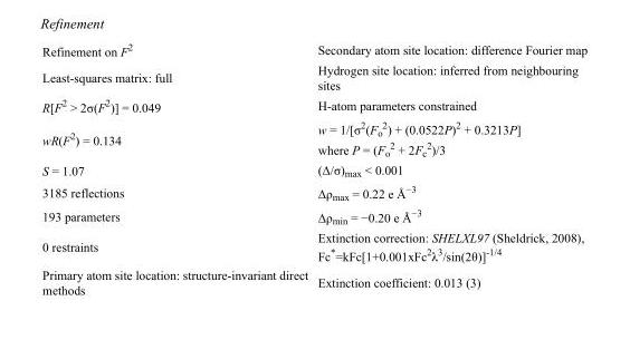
<table><tbody><tr><td>Refinement on F<sup>2</sup></td><td>Secondary atom site location: difference Fourier map</td></tr><tr><td>Least-squares matrix: full</td><td>Hydrogen site location: inferred from neighbouring sites</td></tr><tr><td>R[F<sup>2</sup> &gt; 2σ(F<sup>2</sup>)] = 0.049</td><td>H-atom parameters constrained</td></tr><tr><td>wR(F<sup>2</sup>) = 0.134</td><td>w = 1/[σ<sup>2</sup>(F<sub>o</sub> <sup>2</sup>) + (0.0522P)<sup>2</sup> + 0.3213P] where P = (F<sub>o</sub> <sup>2</sup> + 2F<sub>c</sub> <sup>2</sup>)/3</td></tr><tr><td>S = 1.07</td><td>(Δ/σ)<sub>max</sub> &lt; 0.001</td></tr><tr><td>3185 reflections</td><td>Δρ<sub>max</sub> = 0.22 e Å<sup>−3</sup></td></tr><tr><td>193 parameters</td><td>Δρ<sub>min</sub> = −0.20 e Å<sup>−3</sup></td></tr><tr><td>0 restraints</td><td>Extinction correction: SHELXL97 (Sheldrick, 2008), Fc*=kFc[1+0.001xFc<sup>2</sup>λ<sup>3</sup>/sin(2θ)]<sup>-1/4</sup></td></tr><tr><td>Primary atom site location: structure-invariant direct methods</td><td>Extinction coefficient: 0.013 (3)</td></tr></tbody></table>